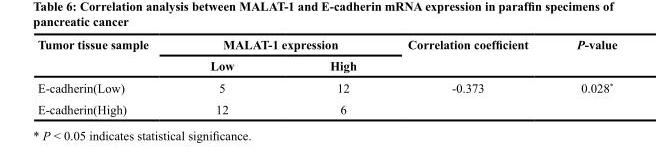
<table><thead><tr><td rowspan="2">Tumor tissue sample</td><td colspan="2">MALAT-1 expression</td><td rowspan="2">Correlation coefficient</td><td rowspan="2">P-value</td></tr><tr><td>Low</td><td>High</td></tr></thead><tbody><tr><td>E-cadherin(Low)</td><td>5</td><td>12</td><td>-0.373</td><td>0.028*</td></tr><tr><td>E-cadherin(High)</td><td>12</td><td>6</td><td></td><td></td></tr></tbody></table>